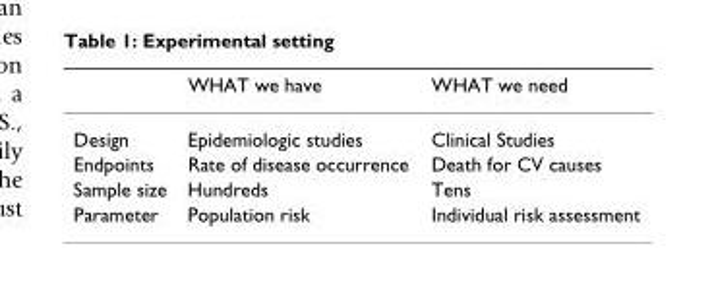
<table><thead><tr><td></td><td>WHAT we have</td><td>WHAT we need</td></tr></thead><tbody><tr><td>Design</td><td>Epidemiologic studies</td><td>Clinical Studies</td></tr><tr><td>Endpoints</td><td>Rate of disease occurrence</td><td>Death for CV causes</td></tr><tr><td>Sample size</td><td>Hundreds</td><td>Tens</td></tr><tr><td>Parameter</td><td>Population risk</td><td>Individual risk assessment</td></tr></tbody></table>